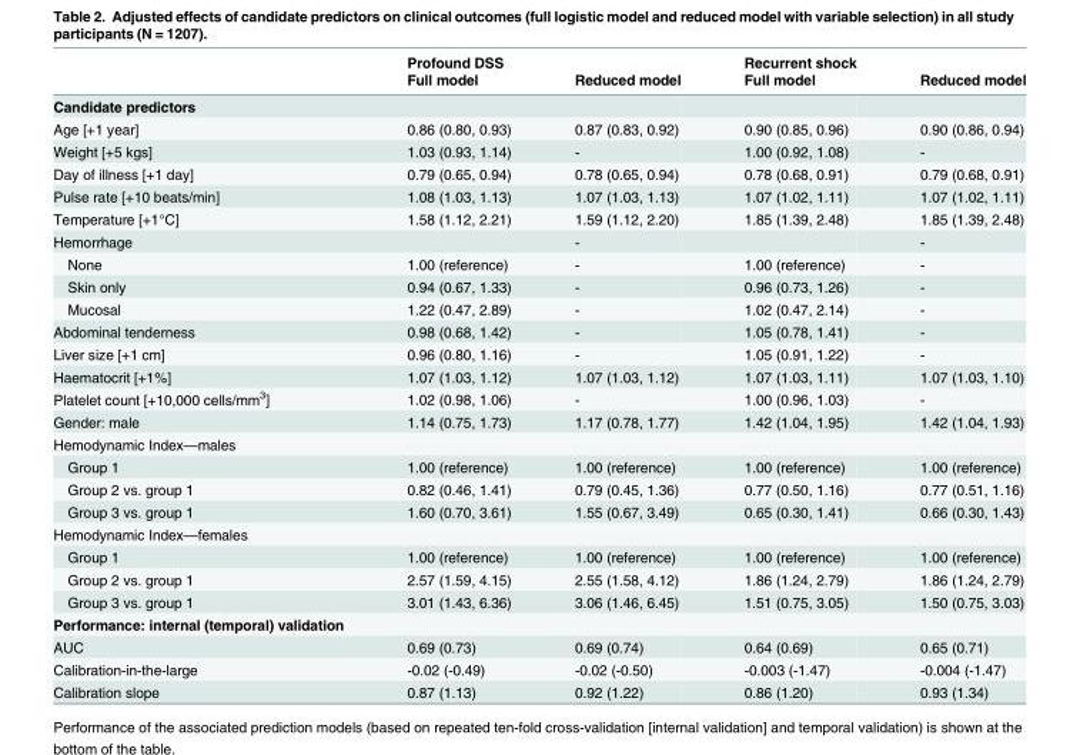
<table><thead><tr><td rowspan="2"></td><td rowspan="2">Profound DSS Full model</td><td rowspan="2">Reduced model</td><td rowspan="2">Recurrent shock Full model</td><td rowspan="2">Reduced model</td></tr><tr></tr></thead><tbody><tr><td colspan="5">Candidate predictors</td></tr><tr><td>Age [+1 year]</td><td>0.86 (0.80, 0.93)</td><td>0.87 (0.83, 0.92)</td><td>0.90 (0.85, 0.96)</td><td>0.90 (0.86, 0.94)</td></tr><tr><td>Weight [+5 kgs]</td><td>1.03 (0.93, 1.14)</td><td>-</td><td>1.00 (0.92, 1.08)</td><td>-</td></tr><tr><td>Day of illness [+1 day]</td><td>0.79 (0.65, 0.94)</td><td>0.78 (0.65, 0.94)</td><td>0.78 (0.68, 0.91)</td><td>0.79 (0.68, 0.91)</td></tr><tr><td>Pulse rate [+10 beats/min]</td><td>1.08 (1.03, 1.13)</td><td>1.07 (1.03, 1.13)</td><td>1.07 (1.02, 1.11)</td><td>1.07 (1.02, 1.11)</td></tr><tr><td>Temperature [+1°C]</td><td>1.58 (1.12, 2.21)</td><td>1.59 (1.12, 2.20)</td><td>1.85 (1.39, 2.48)</td><td>1.85 (1.39, 2.48)</td></tr><tr><td>Hemorrhage</td><td></td><td>-</td><td></td><td>-</td></tr><tr><td>None</td><td>1.00 (reference)</td><td>-</td><td>1.00 (reference)</td><td>-</td></tr><tr><td>Skin only</td><td>0.94 (0.67, 1.33)</td><td>-</td><td>0.96 (0.73, 1.26)</td><td>-</td></tr><tr><td>Mucosal</td><td>1.22 (0.47, 2.89)</td><td>-</td><td>1.02 (0.47, 2.14)</td><td>-</td></tr><tr><td>Abdominal tenderness</td><td>0.98 (0.68, 1.42)</td><td>-</td><td>1.05 (0.78, 1.41)</td><td>-</td></tr><tr><td>Liver size [+1 cm]</td><td>0.96 (0.80, 1.16)</td><td>-</td><td>1.05 (0.91, 1.22)</td><td>-</td></tr><tr><td>Haematocrit [+1%]</td><td>1.07 (1.03, 1.12)</td><td>1.07 (1.03, 1.12)</td><td>1.07 (1.03, 1.11)</td><td>1.07 (1.03, 1.10)</td></tr><tr><td>Platelet count [+10,000 cells/mm<sup>3</sup>]</td><td>1.02 (0.98, 1.06)</td><td>-</td><td>1.00 (0.96, 1.03)</td><td>-</td></tr><tr><td>Gender: male</td><td>1.14 (0.75, 1.73)</td><td>1.17 (0.78, 1.77)</td><td>1.42 (1.04, 1.95)</td><td>1.42 (1.04, 1.93)</td></tr><tr><td colspan="5">Hemodynamic Index—males</td></tr><tr><td>Group 1</td><td>1.00 (reference)</td><td>1.00 (reference)</td><td>1.00 (reference)</td><td>1.00 (reference)</td></tr><tr><td>Group 2 vs. group 1</td><td>0.82 (0.46, 1.41)</td><td>0.79 (0.45, 1.36)</td><td>0.77 (0.50, 1.16)</td><td>0.77 (0.51, 1.16)</td></tr><tr><td>Group 3 vs. group 1</td><td>1.60 (0.70, 3.61)</td><td>1.55 (0.67, 3.49)</td><td>0.65 (0.30, 1.41)</td><td>0.66 (0.30, 1.43)</td></tr><tr><td colspan="5">Hemodynamic Index—females</td></tr><tr><td>Group 1</td><td>1.00 (reference)</td><td>1.00 (reference)</td><td>1.00 (reference)</td><td>1.00 (reference)</td></tr><tr><td>Group 2 vs. group 1</td><td>2.57 (1.59, 4.15)</td><td>2.55 (1.58, 4.12)</td><td>1.86 (1.24, 2.79)</td><td>1.86 (1.24, 2.79)</td></tr><tr><td>Group 3 vs. group 1</td><td>3.01 (1.43, 6.36)</td><td>3.06 (1.46, 6.45)</td><td>1.51 (0.75, 3.05)</td><td>1.50 (0.75, 3.03)</td></tr><tr><td colspan="5">Performance: internal (temporal) validation</td></tr><tr><td>AUC</td><td>0.69 (0.73)</td><td>0.69 (0.74)</td><td>0.64 (0.69)</td><td>0.65 (0.71)</td></tr><tr><td>Calibration-in-the-large</td><td>-0.02 (-0.49)</td><td>-0.02 (-0.50)</td><td>-0.003 (-1.47)</td><td>-0.004 (-1.47)</td></tr><tr><td>Calibration slope</td><td>0.87 (1.13)</td><td>0.92 (1.22)</td><td>0.86 (1.20)</td><td>0.93 (1.34)</td></tr></tbody></table>